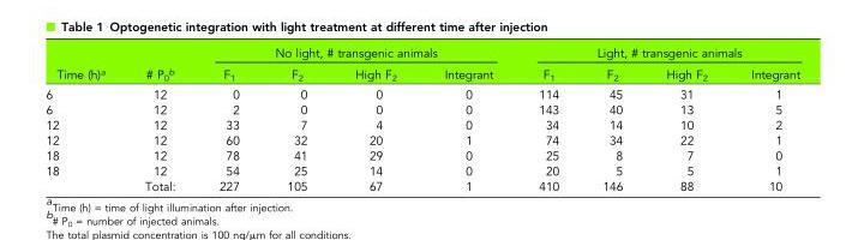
<table><thead><tr><td rowspan="2">Time (h)<sup>a</sup></td><td rowspan="2"># P<sub>0</sub><sup>b</sup></td><td colspan="4">No light, # transgenic animals</td><td colspan="4">Light, # transgenic animals</td></tr><tr><td>F<sub>1</sub></td><td>F<sub>2</sub></td><td>High F<sub>2</sub></td><td>Integrant</td><td>F<sub>1</sub></td><td>F<sub>2</sub></td><td>High F<sub>2</sub></td><td>Integrant</td></tr></thead><tbody><tr><td>6</td><td>12</td><td>0</td><td>0</td><td>0</td><td>0</td><td>114</td><td>45</td><td>31</td><td>1</td></tr><tr><td>6</td><td>12</td><td>2</td><td>0</td><td>0</td><td>0</td><td>143</td><td>40</td><td>13</td><td>5</td></tr><tr><td>12</td><td>12</td><td>33</td><td>7</td><td>4</td><td>0</td><td>34</td><td>14</td><td>10</td><td>2</td></tr><tr><td>12</td><td>12</td><td>60</td><td>32</td><td>20</td><td>1</td><td>74</td><td>34</td><td>22</td><td>1</td></tr><tr><td>18</td><td>12</td><td>78</td><td>41</td><td>29</td><td>0</td><td>25</td><td>8</td><td>7</td><td>0</td></tr><tr><td rowspan="2">18</td><td>12</td><td>54</td><td>25</td><td>14</td><td>0</td><td>20</td><td>5</td><td>5</td><td>1</td></tr><tr><td>Total:</td><td>227</td><td>105</td><td>67</td><td>1</td><td>410</td><td>146</td><td>88</td><td>10</td></tr></tbody></table>